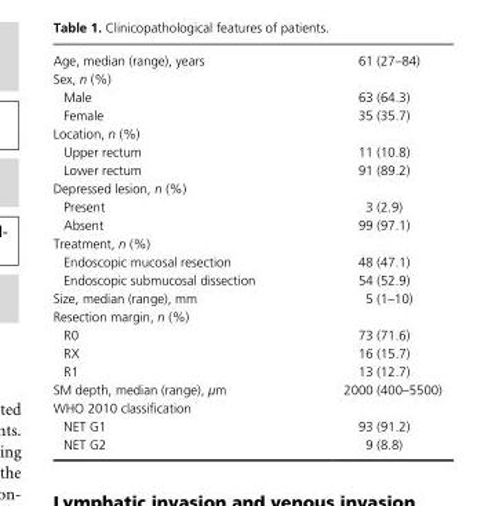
<table><tbody><tr><td>Age, median (range), years</td><td>61 (27–84)</td></tr><tr><td colspan="2">Sex, n (%)</td></tr><tr><td>Male</td><td>63 (64.3)</td></tr><tr><td>Female</td><td>35 (35.7)</td></tr><tr><td colspan="2">Location, n (%)</td></tr><tr><td>Upper rectum</td><td>11 (10.8)</td></tr><tr><td>Lower rectum</td><td>91 (89.2)</td></tr><tr><td colspan="2">Depressed lesion, n (%)</td></tr><tr><td>Present</td><td>3 (2.9)</td></tr><tr><td>Absent</td><td>99 (97.1)</td></tr><tr><td colspan="2">Treatment, n (%)</td></tr><tr><td>Endoscopic mucosal resection</td><td>48 (47.1)</td></tr><tr><td>Endoscopic submucosal dissection</td><td>54 (52.9)</td></tr><tr><td>Size, median (range), mm</td><td>5 (1–10)</td></tr><tr><td colspan="2">Resection margin, n (%)</td></tr><tr><td>R0</td><td>73 (71.6)</td></tr><tr><td>RX</td><td>16 (15.7)</td></tr><tr><td>R1</td><td>13 (12.7)</td></tr><tr><td>SM depth, median (range), μm</td><td>2000 (400–5500)</td></tr><tr><td colspan="2">WHO 2010 classification</td></tr><tr><td>NET G1</td><td>93 (91.2)</td></tr><tr><td>NET G2</td><td>9 (8.8)</td></tr></tbody></table>